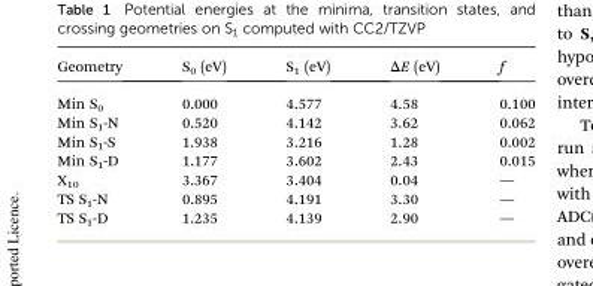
<table><thead><tr><td>Geometry</td><td>S<sub>0</sub> (eV)</td><td>S<sub>1</sub> (eV)</td><td>ΔE (eV)</td><td>f</td></tr></thead><tbody><tr><td>Min S<sub>0</sub></td><td>0.000</td><td>4.577</td><td>4.58</td><td>0.100</td></tr><tr><td>Min S<sub>1</sub>-N</td><td>0.520</td><td>4.142</td><td>3.62</td><td>0.062</td></tr><tr><td>Min S<sub>1</sub>-S</td><td>1.938</td><td>3.216</td><td>1.28</td><td>0.002</td></tr><tr><td>Min S<sub>1</sub>-D</td><td>1.177</td><td>3.602</td><td>2.43</td><td>0.015</td></tr><tr><td>X<sub>10</sub></td><td>3.367</td><td>3.404</td><td>0.04</td><td>—</td></tr><tr><td>TS S<sub>1</sub>-N</td><td>0.895</td><td>4.191</td><td>3.30</td><td>—</td></tr><tr><td>TS S<sub>1</sub>-D</td><td>1.235</td><td>4.139</td><td>2.90</td><td>—</td></tr></tbody></table>